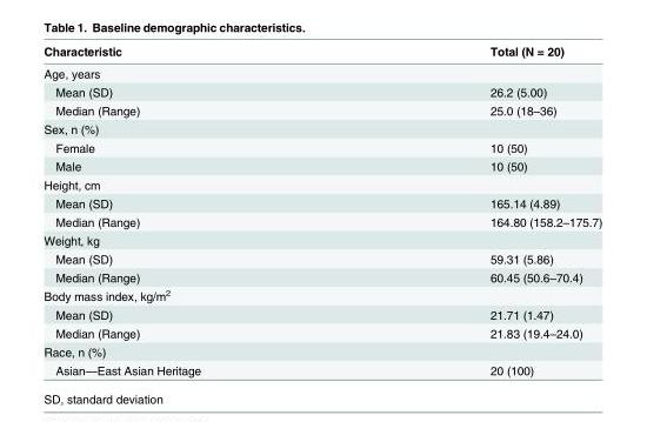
<table><thead><tr><td>Characteristic</td><td>Total (N = 20)</td></tr></thead><tbody><tr><td colspan="2">Age, years</td></tr><tr><td>Mean (SD)</td><td>26.2 (5.00)</td></tr><tr><td>Median (Range)</td><td>25.0 (18–36)</td></tr><tr><td colspan="2">Sex, n (%)</td></tr><tr><td>Female</td><td>10 (50)</td></tr><tr><td>Male</td><td>10 (50)</td></tr><tr><td colspan="2">Height, cm</td></tr><tr><td>Mean (SD)</td><td>165.14 (4.89)</td></tr><tr><td>Median (Range)</td><td>164.80 (158.2–175.7)</td></tr><tr><td colspan="2">Weight, kg</td></tr><tr><td>Mean (SD)</td><td>59.31 (5.86)</td></tr><tr><td>Median (Range)</td><td>60.45 (50.6–70.4)</td></tr><tr><td colspan="2">Body mass index, kg/m<sup>2</sup></td></tr><tr><td>Mean (SD)</td><td>21.71 (1.47)</td></tr><tr><td>Median (Range)</td><td>21.83 (19.4–24.0)</td></tr><tr><td colspan="2">Race, n (%)</td></tr><tr><td>Asian—East Asian Heritage</td><td>20 (100)</td></tr></tbody></table>